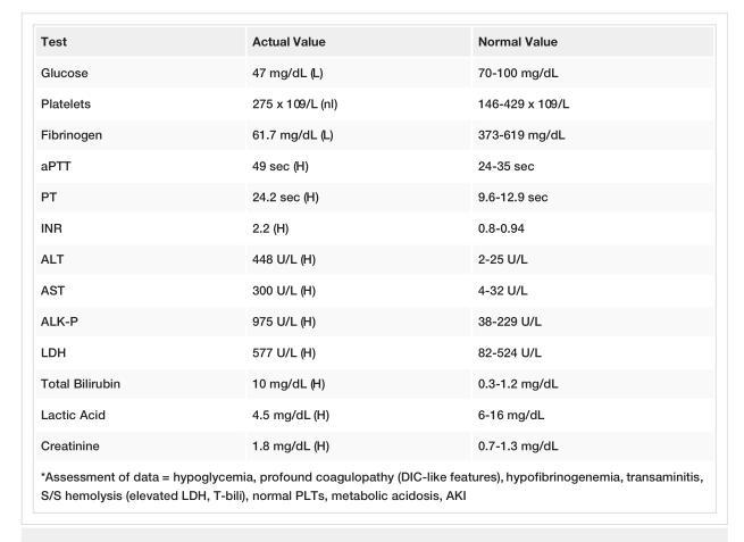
<table><tbody><tr><td>Test</td><td>Actual Value</td><td>Normal Value</td></tr><tr><td>Glucose</td><td>47 mg/dL (L)</td><td>70-100 mg/dL</td></tr><tr><td>Platelets</td><td>275 x 109/L (nl)</td><td>146-429 x 109/L</td></tr><tr><td>Fibrinogen</td><td>61.7 mg/dL (L)</td><td>373-619 mg/dL</td></tr><tr><td>aPTT</td><td>49 sec (H)</td><td>24-35 sec</td></tr><tr><td>PT</td><td>24.2 sec (H)</td><td>9.6-12.9 sec</td></tr><tr><td>INR</td><td>2.2 (H)</td><td>0.8-0.94</td></tr><tr><td>ALT</td><td>448 U/L (H)</td><td>2-25 U/L</td></tr><tr><td>AST</td><td>300 U/L (H)</td><td>4-32 U/L</td></tr><tr><td>ALK-P</td><td>975 U/L (H)</td><td>38-229 U/L</td></tr><tr><td>LDH</td><td>577 U/L (H)</td><td>82-524 U/L</td></tr><tr><td>Total Bilirubin</td><td>10 mg/dL (H)</td><td>0.3-1.2 mg/dL</td></tr><tr><td>Lactic Acid</td><td>4.5 mg/dL (H)</td><td>6-16 mg/dL</td></tr><tr><td>Creatinine</td><td>1.8 mg/dL (H)</td><td>0.7-1.3 mg/dL</td></tr><tr><td colspan="3">*Assessment of data = hypoglycemia, profound coagulopathy (DIC-like features), hypofibrinogenemia, transaminitis, S/S hemolysis (elevated LDH, T-bili), normal PLTs, metabolic acidosis, AKI</td></tr></tbody></table>